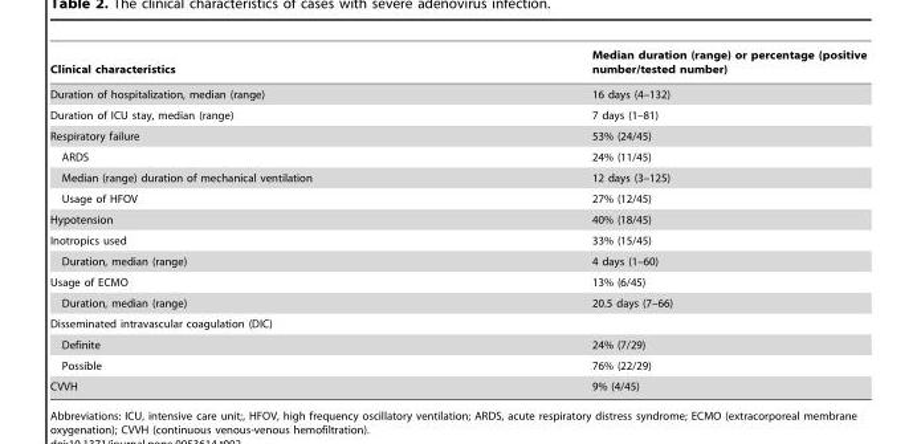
<table><thead><tr><td>Clinical characteristics</td><td>Median duration (range) or percentage (positive number/tested number)</td></tr></thead><tbody><tr><td>Duration of hospitalization, median (range)</td><td>16 days (4–132)</td></tr><tr><td>Duration of ICU stay, median (range)</td><td>7 days (1–81)</td></tr><tr><td>Respiratory failure</td><td>53% (24/45)</td></tr><tr><td>ARDS</td><td>24% (11/45)</td></tr><tr><td>Median (range) duration of mechanical ventilation</td><td>12 days (3–125)</td></tr><tr><td>Usage of HFOV</td><td>27% (12/45)</td></tr><tr><td>Hypotension</td><td>40% (18/45)</td></tr><tr><td>Inotropics used</td><td>33% (15/45)</td></tr><tr><td>Duration, median (range)</td><td>4 days (1–60)</td></tr><tr><td>Usage of ECMO</td><td>13% (6/45)</td></tr><tr><td>Duration, median (range)</td><td>20.5 days (7–66)</td></tr><tr><td colspan="2">Disseminated intravascular coagulation (DIC)</td></tr><tr><td>Definite</td><td>24% (7/29)</td></tr><tr><td>Possible</td><td>76% (22/29)</td></tr><tr><td>CVVH</td><td>9% (4/45)</td></tr></tbody></table>